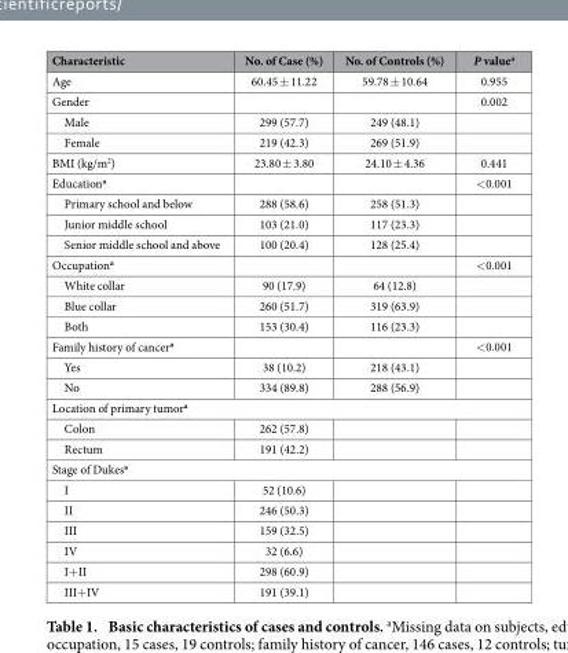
<table><thead><tr><td>Characteristic</td><td>No. of Case (%)</td><td>No. of Controls (%)</td><td>P value<sup>a</sup></td></tr></thead><tbody><tr><td>Age</td><td>60.45 ± 11.22</td><td>59.78 ± 10.64</td><td>0.955</td></tr><tr><td>Gender</td><td></td><td></td><td>0.002</td></tr><tr><td>Male</td><td>299 (57.7)</td><td>249 (48.1)</td><td></td></tr><tr><td>Female</td><td>219 (42.3)</td><td>269 (51.9)</td><td></td></tr><tr><td>BMI (kg/m<sup>2</sup>)</td><td>23.80 ± 3.80</td><td>24.10 ± 4.36</td><td>0.441</td></tr><tr><td>Education<sup>a</sup></td><td></td><td></td><td>&lt; 0.001</td></tr><tr><td>Primary school and below</td><td>288 (58.6)</td><td>258 (51.3)</td><td></td></tr><tr><td>Junior middle school</td><td>103 (21.0)</td><td>117 (23.3)</td><td></td></tr><tr><td>Senior middle school and above</td><td>100 (20.4)</td><td>128 (25.4)</td><td></td></tr><tr><td>Occupation<sup>a</sup></td><td></td><td></td><td>&lt; 0.001</td></tr><tr><td>White collar</td><td>90 (17.9)</td><td>64 (12.8)</td><td></td></tr><tr><td>Blue collar</td><td>260 (51.7)</td><td>319 (63.9)</td><td></td></tr><tr><td>Both</td><td>153 (30.4)</td><td>116 (23.3)</td><td></td></tr><tr><td>Family history of cancer<sup>a</sup></td><td></td><td></td><td>&lt; 0.001</td></tr><tr><td>Yes</td><td>38 (10.2)</td><td>218 (43.1)</td><td></td></tr><tr><td>No</td><td>334 (89.8)</td><td>288 (56.9)</td><td></td></tr><tr><td colspan="4">Location of primary tumor<sup>a</sup></td></tr><tr><td>Colon</td><td>262 (57.8)</td><td></td><td></td></tr><tr><td>Rectum</td><td>191 (42.2)</td><td></td><td></td></tr><tr><td colspan="4">Stage of Dukes<sup>a</sup></td></tr><tr><td>I</td><td>52 (10.6)</td><td></td><td></td></tr><tr><td>II</td><td>246 (50.3)</td><td></td><td></td></tr><tr><td>III</td><td>159 (32.5)</td><td></td><td></td></tr><tr><td>IV</td><td>32 (6.6)</td><td></td><td></td></tr><tr><td>I+ II</td><td>298 (60.9)</td><td></td><td></td></tr><tr><td>III+ IV</td><td>191 (39.1)</td><td></td><td></td></tr></tbody></table>